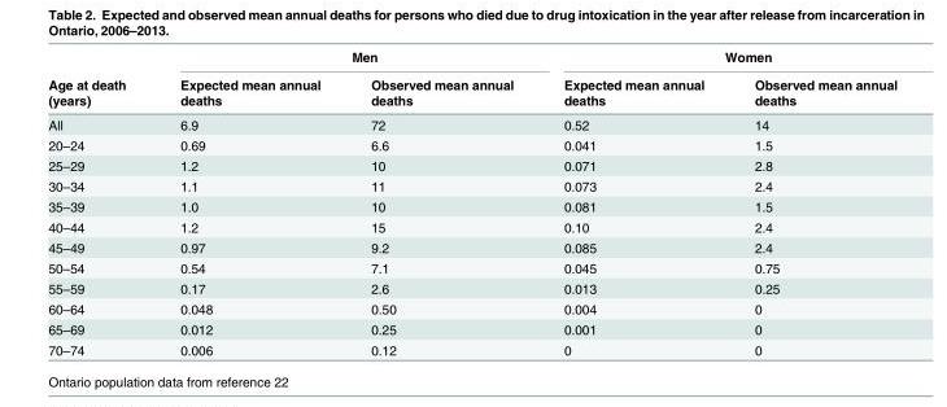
<table><thead><tr><td rowspan="2">Age at death (years)</td><td colspan="2">Men</td><td colspan="2">Women</td></tr><tr><td>Expected mean annual deaths</td><td>Observed mean annual deaths</td><td>Expected mean annual deaths</td><td>Observed mean annual deaths</td></tr></thead><tbody><tr><td>All</td><td>6.9</td><td>72</td><td>0.52</td><td>14</td></tr><tr><td>20–24</td><td>0.69</td><td>6.6</td><td>0.041</td><td>1.5</td></tr><tr><td>25–29</td><td>1.2</td><td>10</td><td>0.071</td><td>2.8</td></tr><tr><td>30–34</td><td>1.1</td><td>11</td><td>0.073</td><td>2.4</td></tr><tr><td>35–39</td><td>1.0</td><td>10</td><td>0.081</td><td>1.5</td></tr><tr><td>40–44</td><td>1.2</td><td>15</td><td>0.10</td><td>2.4</td></tr><tr><td>45–49</td><td>0.97</td><td>9.2</td><td>0.085</td><td>2.4</td></tr><tr><td>50–54</td><td>0.54</td><td>7.1</td><td>0.045</td><td>0.75</td></tr><tr><td>55–59</td><td>0.17</td><td>2.6</td><td>0.013</td><td>0.25</td></tr><tr><td>60–64</td><td>0.048</td><td>0.50</td><td>0.004</td><td>0</td></tr><tr><td>65–69</td><td>0.012</td><td>0.25</td><td>0.001</td><td>0</td></tr><tr><td>70–74</td><td>0.006</td><td>0.12</td><td>0</td><td>0</td></tr></tbody></table>